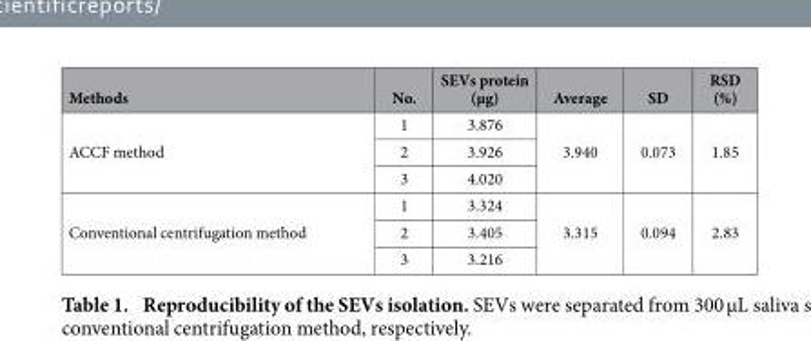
<table><thead><tr><td>Methods</td><td>No.</td><td>SEVs protein (μg)</td><td>Average</td><td>SD</td><td>RSD (%)</td></tr></thead><tbody><tr><td rowspan="3">ACCF method</td><td>1</td><td>3.876</td><td rowspan="3">3.940</td><td rowspan="3">0.073</td><td rowspan="3">1.85</td></tr><tr><td>2</td><td>3.926</td></tr><tr><td>3</td><td>4.020</td></tr><tr><td rowspan="3">Conventional centrifugation method</td><td>1</td><td>3.324</td><td rowspan="3">3.315</td><td rowspan="3">0.094</td><td rowspan="3">2.83</td></tr><tr><td>2</td><td>3.405</td></tr><tr><td>3</td><td>3.216</td></tr></tbody></table>